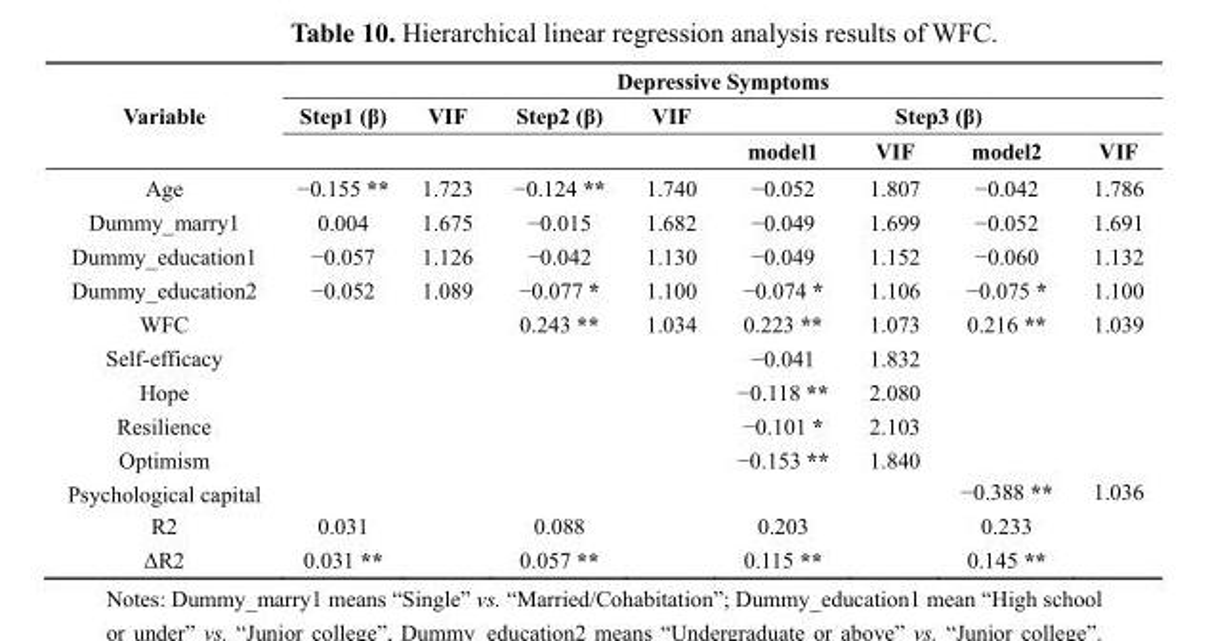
<table><thead><tr><td rowspan="3">Variable</td><td colspan="8">Depressive Symptoms</td></tr><tr><td rowspan="2">Step1 (β)</td><td rowspan="2">VIF</td><td rowspan="2">Step2 (β)</td><td rowspan="2">VIF</td><td colspan="4">Step3 (β)</td></tr><tr><td>model1</td><td>VIF</td><td>model2</td><td>VIF</td></tr></thead><tbody><tr><td>Age</td><td>−0.155 **</td><td>1.723</td><td>−0.124 **</td><td>1.740</td><td>−0.052</td><td>1.807</td><td>−0.042</td><td>1.786</td></tr><tr><td>Dummy_marry1</td><td>0.004</td><td>1.675</td><td>−0.015</td><td>1.682</td><td>−0.049</td><td>1.699</td><td>−0.052</td><td>1.691</td></tr><tr><td>Dummy_education1</td><td>−0.057</td><td>1.126</td><td>−0.042</td><td>1.130</td><td>−0.049</td><td>1.152</td><td>−0.060</td><td>1.132</td></tr><tr><td>Dummy_education2</td><td>−0.052</td><td>1.089</td><td>−0.077 *</td><td>1.100</td><td>−0.074 *</td><td>1.106</td><td>−0.075 *</td><td>1.100</td></tr><tr><td>WFC</td><td></td><td></td><td>0.243 **</td><td>1.034</td><td>0.223 **</td><td>1.073</td><td>0.216 **</td><td>1.039</td></tr><tr><td>Self-efficacy</td><td></td><td></td><td></td><td></td><td>−0.041</td><td>1.832</td><td></td><td></td></tr><tr><td>Hope</td><td></td><td></td><td></td><td></td><td>−0.118 **</td><td>2.080</td><td></td><td></td></tr><tr><td>Resilience</td><td></td><td></td><td></td><td></td><td>−0.101 *</td><td>2.103</td><td></td><td></td></tr><tr><td>Optimism</td><td></td><td></td><td></td><td></td><td>−0.153 **</td><td>1.840</td><td></td><td></td></tr><tr><td>Psychological capital</td><td></td><td></td><td></td><td></td><td></td><td></td><td>−0.388 **</td><td>1.036</td></tr><tr><td>R2</td><td>0.031</td><td></td><td>0.088</td><td></td><td>0.203</td><td></td><td>0.233</td><td></td></tr><tr><td>ΔR2</td><td>0.031 **</td><td></td><td>0.057 **</td><td></td><td>0.115 **</td><td></td><td>0.145 **</td><td></td></tr></tbody></table>